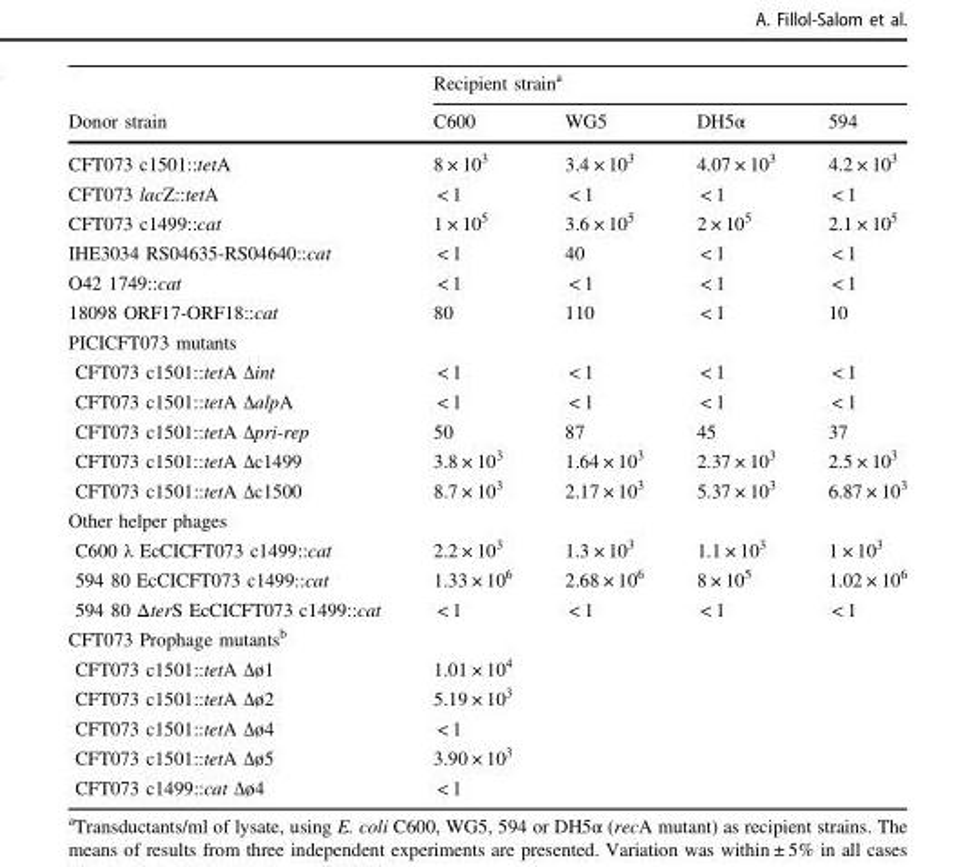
<table><thead><tr><td rowspan="2">Donor strain</td><td colspan="4">Recipient strain<sup>a</sup></td></tr><tr><td>C600</td><td>WG5</td><td>DH5α</td><td>594</td></tr></thead><tbody><tr><td>CFT073 c1501::tetA</td><td>8 × 10<sup>3</sup></td><td>3.4 × 10<sup>3</sup></td><td>4.07 × 10<sup>3</sup></td><td>4.2 × 10<sup>3</sup></td></tr><tr><td>CFT073 lacZ::tetA</td><td>&lt; 1</td><td>&lt; 1</td><td>&lt; 1</td><td>&lt; 1</td></tr><tr><td>CFT073 c1499::cat</td><td>1 × 10<sup>5</sup></td><td>3.6 × 10<sup>5</sup></td><td>2 × 10<sup>5</sup></td><td>2.1 × 10<sup>5</sup></td></tr><tr><td>IHE3034 RS04635-RS04640::cat</td><td>&lt; 1</td><td>40</td><td>&lt; 1</td><td>&lt; 1</td></tr><tr><td>O42 1749::cat</td><td>&lt; 1</td><td>&lt; 1</td><td>&lt; 1</td><td>&lt; 1</td></tr><tr><td>18098 ORF17-ORF18::cat</td><td>80</td><td>110</td><td>&lt; 1</td><td>10</td></tr><tr><td colspan="5">PICICFT073 mutants</td></tr><tr><td>CFT073 c1501::tetA Δint</td><td>&lt; 1</td><td>&lt; 1</td><td>&lt; 1</td><td>&lt; 1</td></tr><tr><td>CFT073 c1501::tetA ΔalpA</td><td>&lt; 1</td><td>&lt; 1</td><td>&lt; 1</td><td>&lt; 1</td></tr><tr><td>CFT073 c1501::tetA Δpri-rep</td><td>50</td><td>87</td><td>45</td><td>37</td></tr><tr><td>CFT073 c1501::tetA Δc1499</td><td>3.8 × 10<sup>3</sup></td><td>1.64 × 10<sup>3</sup></td><td>2.37 × 10<sup>3</sup></td><td>2.5 × 10<sup>3</sup></td></tr><tr><td>CFT073 c1501::tetA Δc1500</td><td>8.7 × 10<sup>3</sup></td><td>2.17 × 10<sup>3</sup></td><td>5.37 × 10<sup>3</sup></td><td>6.87 × 10<sup>3</sup></td></tr><tr><td colspan="5">Other helper phages</td></tr><tr><td>C600 λ EcCICFT073 c1499::cat</td><td>2.2 × 10<sup>3</sup></td><td>1.3 × 10<sup>3</sup></td><td>1.1 × 10<sup>3</sup></td><td>1 × 10<sup>3</sup></td></tr><tr><td>594 80 EcCICFT073 c1499::cat</td><td>1.33 × 10<sup>6</sup></td><td>2.68 × 10<sup>6</sup></td><td>8 × 10<sup>5</sup></td><td>1.02 × 10<sup>6</sup></td></tr><tr><td>594 80 ΔterS EcCICFT073 c1499::cat</td><td>&lt; 1</td><td>&lt; 1</td><td>&lt; 1</td><td>&lt; 1</td></tr><tr><td colspan="5">CFT073 Prophage mutants<sup>b</sup></td></tr><tr><td>CFT073 c1501::tetA Δø1</td><td>1.01 × 10<sup>4</sup></td><td></td><td></td><td></td></tr><tr><td>CFT073 c1501::tetA Δø2</td><td>5.19 × 10<sup>3</sup></td><td></td><td></td><td></td></tr><tr><td>CFT073 c1501::tetA Δø4</td><td>&lt; 1</td><td></td><td></td><td></td></tr><tr><td>CFT073 c1501::tetA Δø5</td><td>3.90 × 10<sup>3</sup></td><td></td><td></td><td></td></tr><tr><td>CFT073 c1499::cat Δø4</td><td>&lt; 1</td><td></td><td></td><td></td></tr></tbody></table>